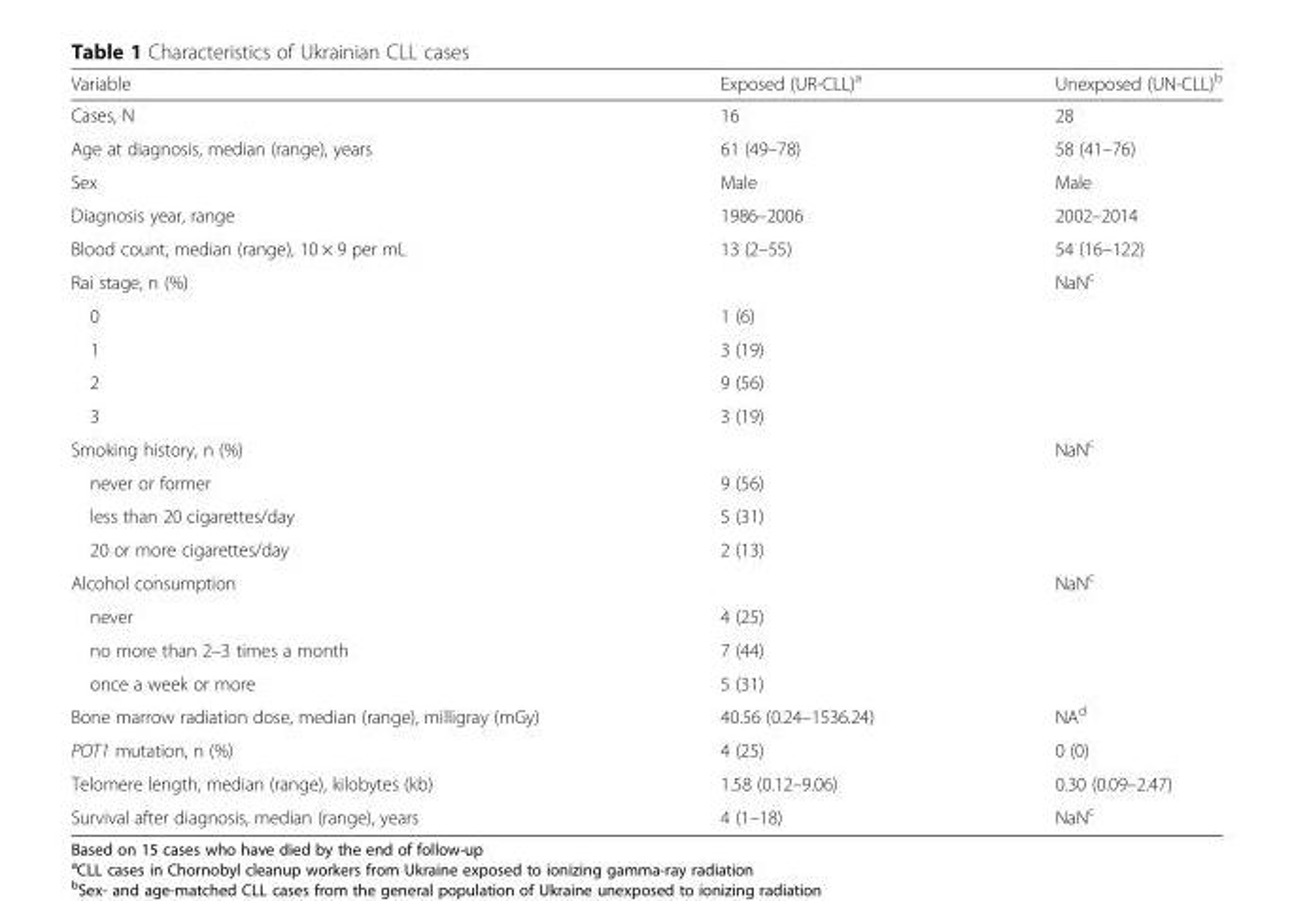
<table><thead><tr><td>Variable</td><td>Exposed (UR-CLL)<sup>a</sup></td><td>Unexposed (UN-CLL)<sup>b</sup></td></tr></thead><tbody><tr><td>Cases, N</td><td>16</td><td>28</td></tr><tr><td>Age at diagnosis, median (range), years</td><td>61 (49–78)</td><td>58 (41–76)</td></tr><tr><td>Sex</td><td>Male</td><td>Male</td></tr><tr><td>Diagnosis year, range</td><td>1986–2006</td><td>2002–2014</td></tr><tr><td>Blood count, median (range), 10 × 9 per mL</td><td>13 (2–55)</td><td>54 (16–122)</td></tr><tr><td>Rai stage, n (%)</td><td></td><td>NaN<sup>c</sup></td></tr><tr><td>0</td><td>1 (6)</td><td></td></tr><tr><td>1</td><td>3 (19)</td><td></td></tr><tr><td>2</td><td>9 (56)</td><td></td></tr><tr><td>3</td><td>3 (19)</td><td></td></tr><tr><td>Smoking history, n (%)</td><td></td><td>NaN<sup>c</sup></td></tr><tr><td>never or former</td><td>9 (56)</td><td></td></tr><tr><td>less than 20 cigarettes/day</td><td>5 (31)</td><td></td></tr><tr><td>20 or more cigarettes/day</td><td>2 (13)</td><td></td></tr><tr><td>Alcohol consumption</td><td></td><td>NaN<sup>c</sup></td></tr><tr><td>never</td><td>4 (25)</td><td></td></tr><tr><td>no more than 2–3 times a month</td><td>7 (44)</td><td></td></tr><tr><td>once a week or more</td><td>5 (31)</td><td></td></tr><tr><td>Bone marrow radiation dose, median (range), milligray (mGy)</td><td>40.56 (0.24–1536.24)</td><td>NA<sup>d</sup></td></tr><tr><td>POT1 mutation, n (%)</td><td>4 (25)</td><td>0 (0)</td></tr><tr><td>Telomere length, median (range), kilobytes (kb)</td><td>1.58 (0.12–9.06)</td><td>0.30 (0.09–2.47)</td></tr><tr><td>Survival after diagnosis, median (range), years</td><td>4 (1–18)</td><td>NaN<sup>c</sup></td></tr></tbody></table>